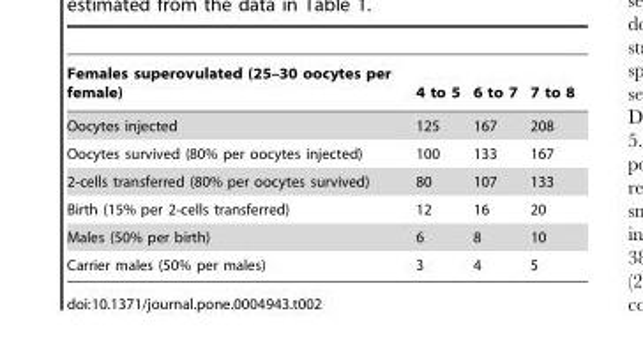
<table><thead><tr><td>Females superovulated (25–30 oocytes per female)</td><td>4 to 5</td><td>6 to 7</td><td>7 to 8</td></tr></thead><tbody><tr><td>Oocytes injected</td><td>125</td><td>167</td><td>208</td></tr><tr><td>Oocytes survived (80% per oocytes injected)</td><td>100</td><td>133</td><td>167</td></tr><tr><td>2-cells transferred (80% per oocytes survived)</td><td>80</td><td>107</td><td>133</td></tr><tr><td>Birth (15% per 2-cells transferred)</td><td>12</td><td>16</td><td>20</td></tr><tr><td>Males (50% per birth)</td><td>6</td><td>8</td><td>10</td></tr><tr><td>Carrier males (50% per males)</td><td>3</td><td>4</td><td>5</td></tr></tbody></table>